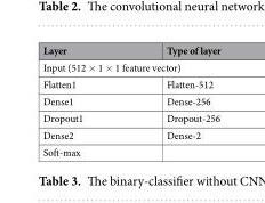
<table><thead><tr><td>Layer</td><td>Type of layer</td></tr></thead><tbody><tr><td colspan="2">Input (512 × 1 × 1 feature vector)</td></tr><tr><td>Flatten1</td><td>Flatten-512</td></tr><tr><td>Dense1</td><td>Dense-256</td></tr><tr><td>Dropout1</td><td>Dropout-256</td></tr><tr><td>Dense2</td><td>Dense-2</td></tr><tr><td>Soft-max</td><td></td></tr></tbody></table>